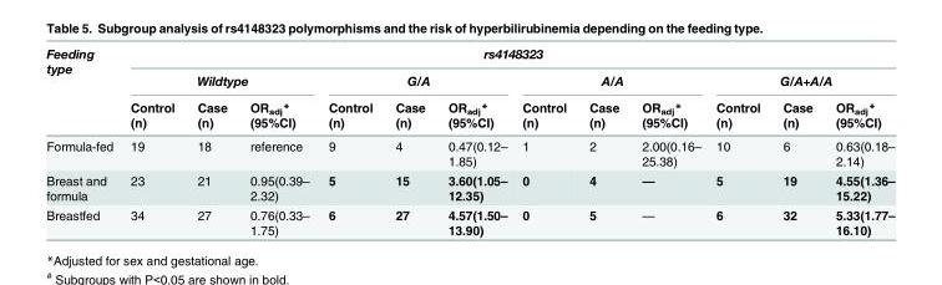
<table><thead><tr><td rowspan="3">Feeding type</td><td colspan="12">rs4148323</td></tr><tr><td colspan="3">Wildtype</td><td colspan="3">G/A</td><td colspan="3">A/A</td><td colspan="3">G/A+A/A</td></tr><tr><td>Control (n)</td><td>Case (n)</td><td>OR<sub>adj</sub>* (95%CI)</td><td>Control (n)</td><td>Case (n)</td><td>OR<sub>adj</sub>* (95%CI)</td><td>Control (n)</td><td>Case (n)</td><td>OR<sub>adj</sub>* (95%CI)</td><td>Control (n)</td><td>Case (n)</td><td>OR<sub>adj</sub>* (95%CI)</td></tr></thead><tbody><tr><td>Formula-fed</td><td>19</td><td>18</td><td>reference</td><td>9</td><td>4</td><td>0.47(0.12– 1.85)</td><td>1</td><td>2</td><td>2.00(0.16– 25.38)</td><td>10</td><td>6</td><td>0.63(0.18– 2.14)</td></tr><tr><td>Breast and formula</td><td>23</td><td>21</td><td>0.95(0.39– 2.32)</td><td>5</td><td>15</td><td>3.60(1.05– 12.35)</td><td>0</td><td>4</td><td>—</td><td>5</td><td>19</td><td>4.55(1.36– 15.22)</td></tr><tr><td>Breastfed</td><td>34</td><td>27</td><td>0.76(0.33– 1.75)</td><td>6</td><td>27</td><td>4.57(1.50– 13.90)</td><td>0</td><td>5</td><td>—</td><td>6</td><td>32</td><td>5.33(1.77– 16.10)</td></tr></tbody></table>